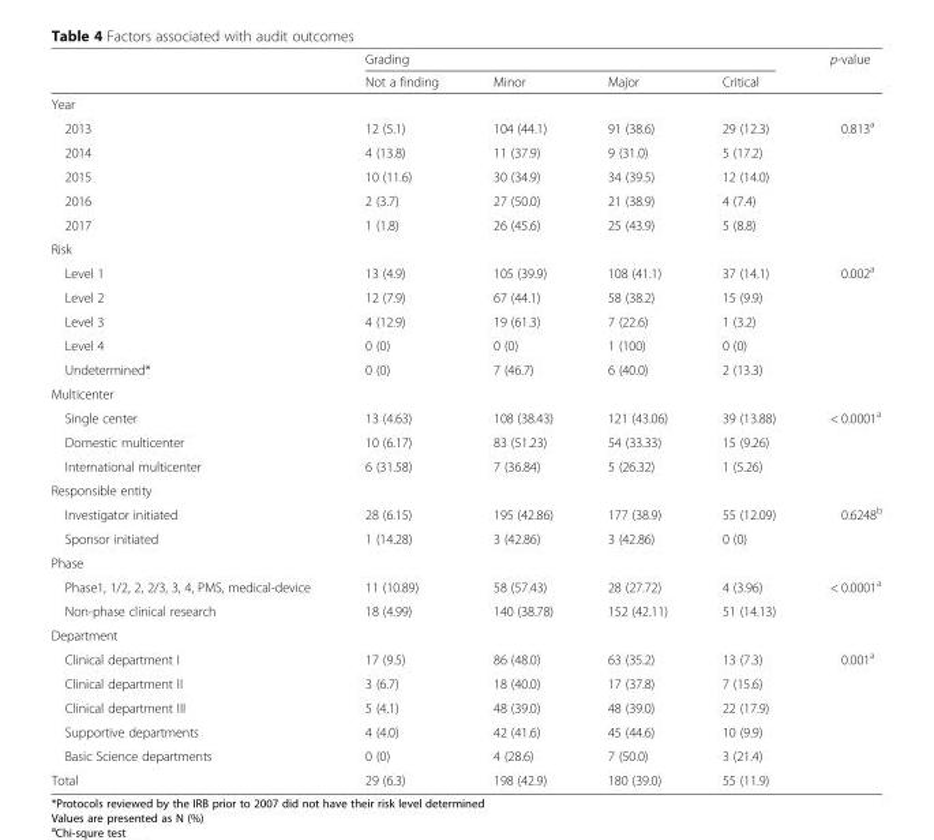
<table><thead><tr><td rowspan="2"></td><td colspan="4">Grading</td><td rowspan="2">p-value</td></tr><tr><td>Not a finding</td><td>Minor</td><td>Major</td><td>Critical</td></tr></thead><tbody><tr><td colspan="6">Year</td></tr><tr><td>2013</td><td>12 (5.1)</td><td>104 (44.1)</td><td>91 (38.6)</td><td>29 (12.3)</td><td rowspan="5">0.813<sup>a</sup></td></tr><tr><td>2014</td><td>4 (13.8)</td><td>11 (37.9)</td><td>9 (31.0)</td><td>5 (17.2)</td></tr><tr><td>2015</td><td>10 (11.6)</td><td>30 (34.9)</td><td>34 (39.5)</td><td>12 (14.0)</td></tr><tr><td>2016</td><td>2 (3.7)</td><td>27 (50.0)</td><td>21 (38.9)</td><td>4 (7.4)</td></tr><tr><td>2017</td><td>1 (1.8)</td><td>26 (45.6)</td><td>25 (43.9)</td><td>5 (8.8)</td></tr><tr><td colspan="6">Risk</td></tr><tr><td>Level 1</td><td>13 (4.9)</td><td>105 (39.9)</td><td>108 (41.1)</td><td>37 (14.1)</td><td rowspan="5">0.002<sup>a</sup></td></tr><tr><td>Level 2</td><td>12 (7.9)</td><td>67 (44.1)</td><td>58 (38.2)</td><td>15 (9.9)</td></tr><tr><td>Level 3</td><td>4 (12.9)</td><td>19 (61.3)</td><td>7 (22.6)</td><td>1 (3.2)</td></tr><tr><td>Level 4</td><td>0 (0)</td><td>0 (0)</td><td>1 (100)</td><td>0 (0)</td></tr><tr><td>Undetermined*</td><td>0 (0)</td><td>7 (46.7)</td><td>6 (40.0)</td><td>2 (13.3)</td></tr><tr><td colspan="6">Multicenter</td></tr><tr><td>Single center</td><td>13 (4.63)</td><td>108 (38.43)</td><td>121 (43.06)</td><td>39 (13.88)</td><td rowspan="3">&lt; 0.0001<sup>a</sup></td></tr><tr><td>Domestic multicenter</td><td>10 (6.17)</td><td>83 (51.23)</td><td>54 (33.33)</td><td>15 (9.26)</td></tr><tr><td>International multicenter</td><td>6 (31.58)</td><td>7 (36.84)</td><td>5 (26.32)</td><td>1 (5.26)</td></tr><tr><td colspan="6">Responsible entity</td></tr><tr><td>Investigator initiated</td><td>28 (6.15)</td><td>195 (42.86)</td><td>177 (38.9)</td><td>55 (12.09)</td><td rowspan="2">0.6248<sup>b</sup></td></tr><tr><td>Sponsor initiated</td><td>1 (14.28)</td><td>3 (42.86)</td><td>3 (42.86)</td><td>0 (0)</td></tr><tr><td colspan="6">Phase</td></tr><tr><td>Phase1, 1/2, 2, 2/3, 3, 4, PMS, medical-device</td><td>11 (10.89)</td><td>58 (57.43)</td><td>28 (27.72)</td><td>4 (3.96)</td><td rowspan="2">&lt; 0.0001<sup>a</sup></td></tr><tr><td>Non-phase clinical research</td><td>18 (4.99)</td><td>140 (38.78)</td><td>152 (42.11)</td><td>51 (14.13)</td></tr><tr><td colspan="6">Department</td></tr><tr><td>Clinical department I</td><td>17 (9.5)</td><td>86 (48.0)</td><td>63 (35.2)</td><td>13 (7.3)</td><td rowspan="5">0.001<sup>a</sup></td></tr><tr><td>Clinical department II</td><td>3 (6.7)</td><td>18 (40.0)</td><td>17 (37.8)</td><td>7 (15.6)</td></tr><tr><td>Clinical department III</td><td>5 (4.1)</td><td>48 (39.0)</td><td>48 (39.0)</td><td>22 (17.9)</td></tr><tr><td>Supportive departments</td><td>4 (4.0)</td><td>42 (41.6)</td><td>45 (44.6)</td><td>10 (9.9)</td></tr><tr><td>Basic Science departments</td><td>0 (0)</td><td>4 (28.6)</td><td>7 (50.0)</td><td>3 (21.4)</td></tr><tr><td>Total</td><td>29 (6.3)</td><td>198 (42.9)</td><td>180 (39.0)</td><td>55 (11.9)</td><td></td></tr></tbody></table>